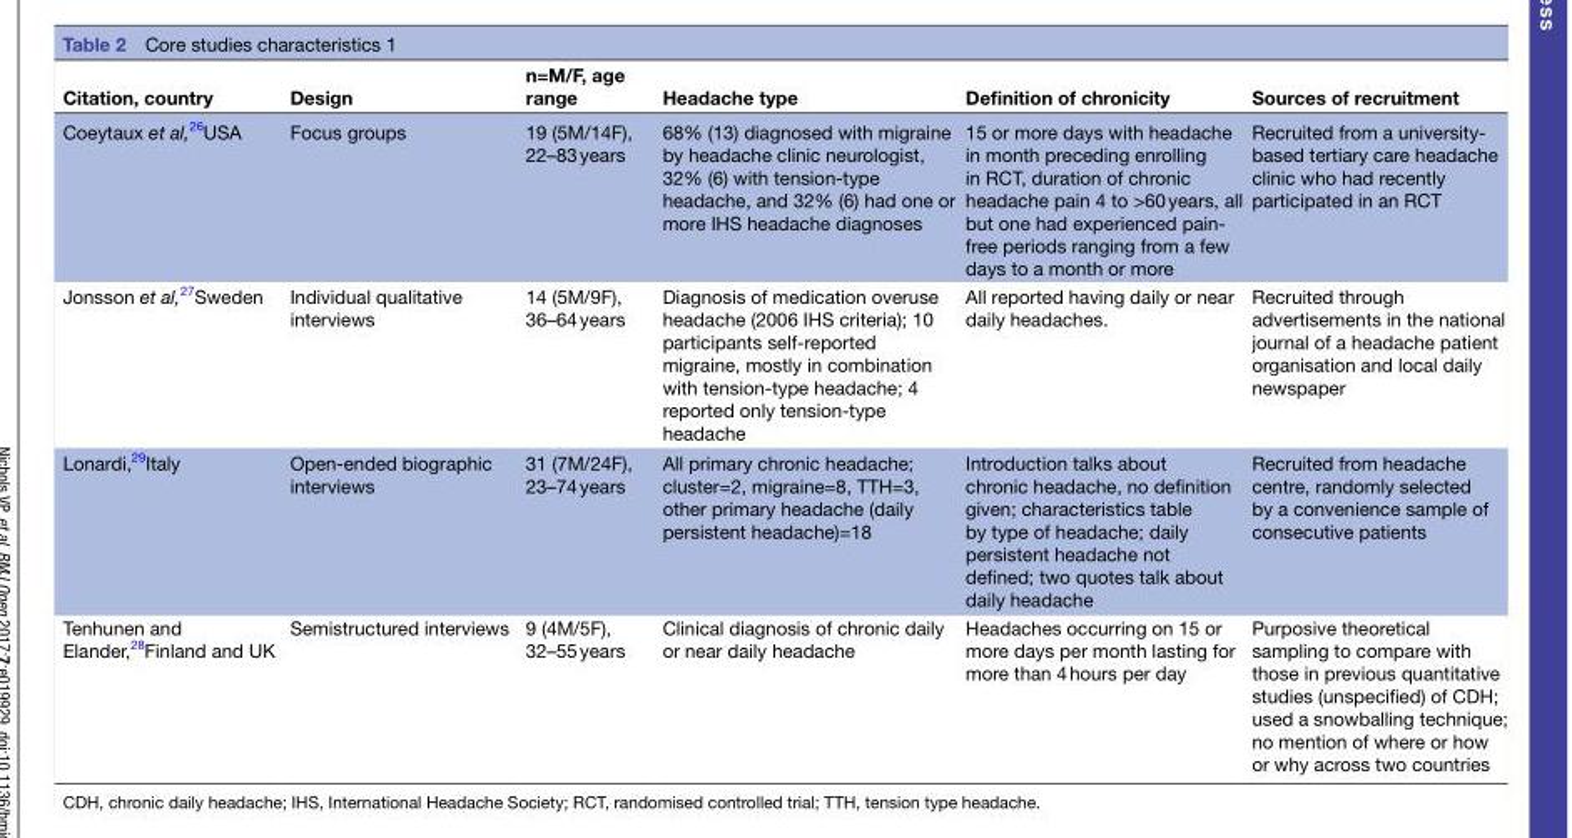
<table><thead><tr><td>Citation, country</td><td>Design</td><td>n=M/F, age range</td><td>Headache type</td><td>Definition of chronicity</td><td>Sources of recruitment</td></tr></thead><tbody><tr><td>Coeytaux et al,<sup>26</sup>USA</td><td>Focus groups</td><td>19 (5M/14F), 22–83 years</td><td>68% (13) diagnosed with migraine by headache clinic neurologist, 32% (6) with tension-type headache, and 32% (6) had one or more IHS headache diagnoses</td><td>15 or more days with headache in month preceding enrolling in RCT, duration of chronic headache pain 4 to &gt;60 years, all but one had experienced pain- free periods ranging from a few days to a month or more</td><td>Recruited from a university- based tertiary care headache clinic who had recently participated in an RCT</td></tr><tr><td>Jonsson et al,<sup>27</sup>Sweden</td><td>Individual qualitative interviews</td><td>14 (5M/9F), 36–64 years</td><td>Diagnosis of medication overuse headache (2006 IHS criteria); 10 participants self-reported migraine, mostly in combination with tension-type headache; 4 reported only tension-type headache</td><td>All reported having daily or near daily headaches.</td><td>Recruited through advertisements in the national journal of a headache patient organisation and local daily newspaper</td></tr><tr><td>Lonardi,<sup>29</sup>Italy</td><td>Open-ended biographic interviews</td><td>31 (7M/24F), 23–74 years</td><td>All primary chronic headache; cluster=2, migraine=8, TTH=3, other primary headache (daily persistent headache)=18</td><td>Introduction talks about chronic headache, no definition given; characteristics table by type of headache; daily persistent headache not defined; two quotes talk about daily headache</td><td>Recruited from headache centre, randomly selected by a convenience sample of consecutive patients</td></tr><tr><td>Tenhunen and Elander,<sup>28</sup>Finland and UK</td><td>Semistructured interviews</td><td>9 (4M/5F), 32–55 years</td><td>Clinical diagnosis of chronic daily or near daily headache</td><td>Headaches occurring on 15 or more days per month lasting for more than 4 hours per day</td><td>Purposive theoretical sampling to compare with those in previous quantitative studies (unspecified) of CDH; used a snowballing technique; no mention of where or how or why across two countries</td></tr></tbody></table>